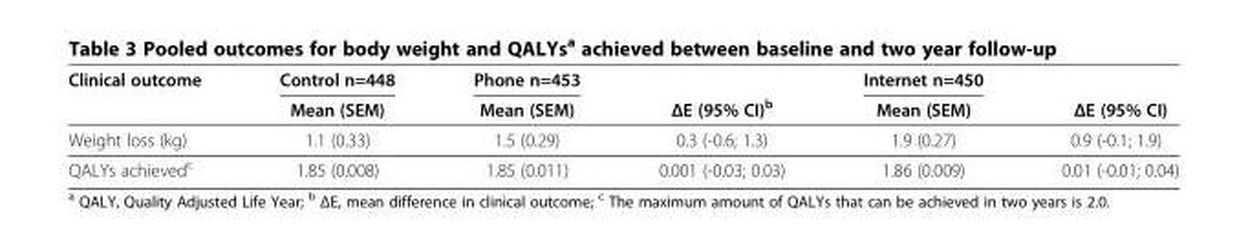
<table><thead><tr><td rowspan="2">Clinical outcome</td><td rowspan="2">Control n=448 Mean (SEM)</td><td rowspan="2">Phone n=453 Mean (SEM)</td><td rowspan="2">ΔE (95% CI)<sup>b</sup></td><td rowspan="2">Internet n=450 Mean (SEM)</td><td rowspan="2">ΔE (95% CI)</td></tr><tr></tr></thead><tbody><tr><td>Weight loss (kg)</td><td>1.1 (0.33)</td><td>1.5 (0.29)</td><td>0.3 (-0.6; 1.3)</td><td>1.9 (0.27)</td><td>0.9 (-0.1; 1.9)</td></tr><tr><td>QALYs achieved<sup>c</sup></td><td>1.85 (0.008)</td><td>1.85 (0.011)</td><td>0.001 (-0.03; 0.03)</td><td>1.86 (0.009)</td><td>0.01 (-0.01; 0.04)</td></tr></tbody></table>